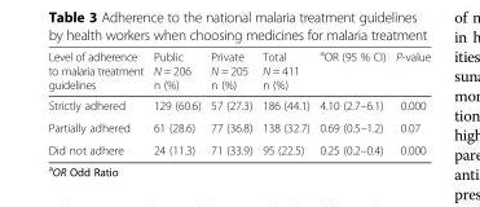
<table><thead><tr><td>Level of adherence to malaria treatment guidelines</td><td>Public N = 206 n (%)</td><td>Private N = 205 n (%)</td><td>Total N = 411 n (%)</td><td><sup>a</sup>OR (95 % CI)</td><td>P-value</td></tr></thead><tbody><tr><td>Strictly adhered</td><td>129 (60.6)</td><td>57 (27.3)</td><td>186 (44.1)</td><td>4.10 (2.7–6.1)</td><td>0.000</td></tr><tr><td>Partially adhered</td><td>61 (28.6)</td><td>77 (36.8)</td><td>138 (32.7)</td><td>0.69 (0.5–1.2)</td><td>0.07</td></tr><tr><td>Did not adhere</td><td>24 (11.3)</td><td>71 (33.9)</td><td>95 (22.5)</td><td>0.25 (0.2–0.4)</td><td>0.000</td></tr></tbody></table>